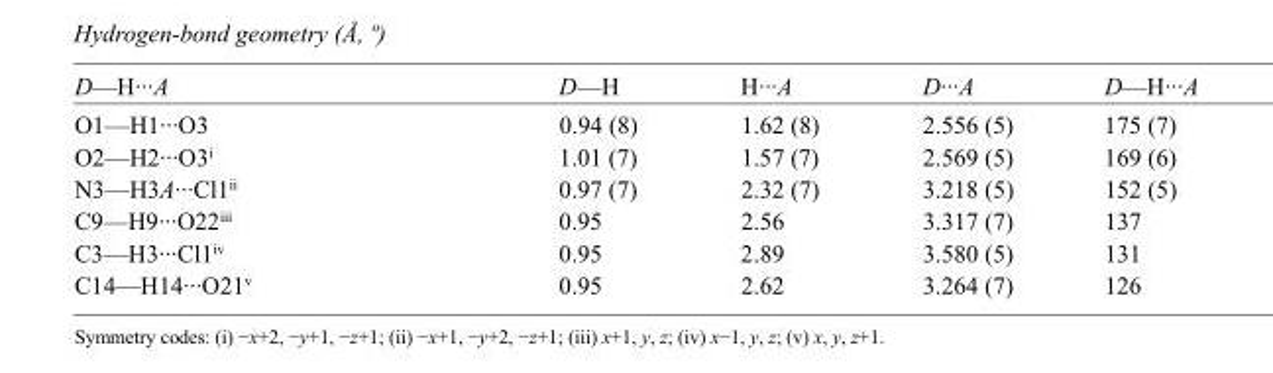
<table><tbody><tr><td>D—H···A</td><td>D—H</td><td>H···A</td><td>D···A</td><td>D—H···A</td></tr><tr><td>O1—H1···O3</td><td>0.94 (8)</td><td>1.62 (8)</td><td>2.556 (5)</td><td>175 (7)</td></tr><tr><td>O2—H2···O3<sup>i</sup></td><td>1.01 (7)</td><td>1.57 (7)</td><td>2.569 (5)</td><td>169 (6)</td></tr><tr><td>N3—H3A···Cl1<sup>ii</sup></td><td>0.97 (7)</td><td>2.32 (7)</td><td>3.218 (5)</td><td>152 (5)</td></tr><tr><td>C9—H9···O22<sup>iii</sup></td><td>0.95</td><td>2.56</td><td>3.317 (7)</td><td>137</td></tr><tr><td>C3—H3···Cl1<sup>iv</sup></td><td>0.95</td><td>2.89</td><td>3.580 (5)</td><td>131</td></tr><tr><td>C14—H14···O21<sup>v</sup></td><td>0.95</td><td>2.62</td><td>3.264 (7)</td><td>126</td></tr></tbody></table>